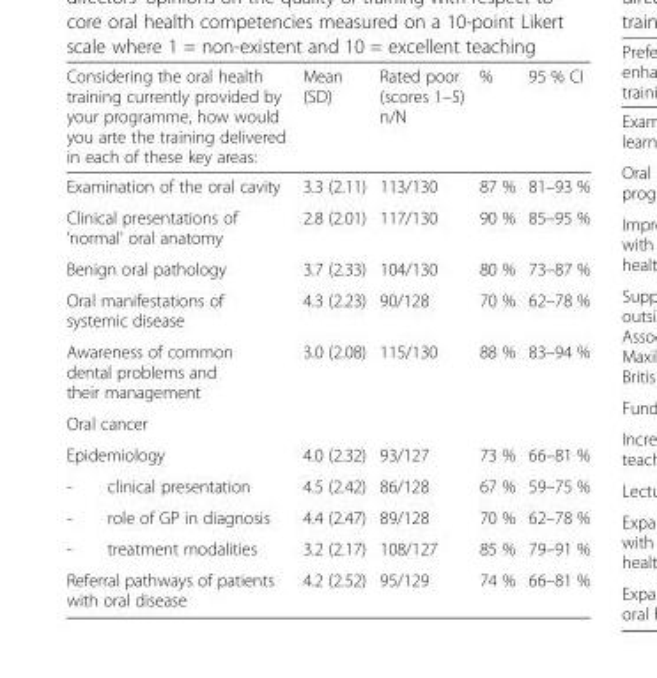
<table><thead><tr><td>Considering the oral health training currently provided by your programme, how would you arte the training delivered in each of these key areas:</td><td>Mean (SD)</td><td>Rated poor (scores 1–5) n/N</td><td>%</td><td>95 % CI</td></tr></thead><tbody><tr><td>Examination of the oral cavity</td><td>3.3 (2.11)</td><td>113/130</td><td>87 %</td><td>81–93 %</td></tr><tr><td>Clinical presentations of ‘normal’ oral anatomy</td><td>2.8 (2.01)</td><td>117/130</td><td>90 %</td><td>85–95 %</td></tr><tr><td>Benign oral pathology</td><td>3.7 (2.33)</td><td>104/130</td><td>80 %</td><td>73–87 %</td></tr><tr><td>Oral manifestations of systemic disease</td><td>4.3 (2.23)</td><td>90/128</td><td>70 %</td><td>62–78 %</td></tr><tr><td>Awareness of common dental problems and their management</td><td>3.0 (2.08)</td><td>115/130</td><td>88 %</td><td>83–94 %</td></tr><tr><td colspan="5">Oral cancer</td></tr><tr><td>Epidemiology</td><td>4.0 (2.32)</td><td>93/127</td><td>73 %</td><td>66–81 %</td></tr><tr><td>- clinical presentation</td><td>4.5 (2.42)</td><td>86/128</td><td>67 %</td><td>59–75 %</td></tr><tr><td>- role of GP in diagnosis</td><td>4.4 (2.47)</td><td>89/128</td><td>70 %</td><td>62–78 %</td></tr><tr><td>- treatment modalities</td><td>3.2 (2.17)</td><td>108/127</td><td>85 %</td><td>79–91 %</td></tr><tr><td>Referral pathways of patients with oral disease</td><td>4.2 (2.52)</td><td>95/129</td><td>74 %</td><td>66–81 %</td></tr></tbody></table>